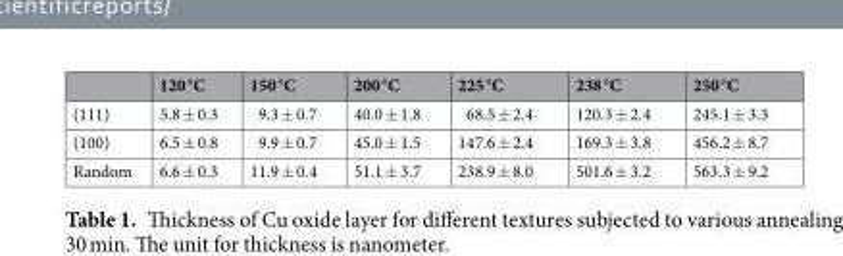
<table><thead><tr><td></td><td>120 °C</td><td>150 °C</td><td>200 °C</td><td>225 °C</td><td>238 °C</td><td>250 °C</td></tr></thead><tbody><tr><td>(111)</td><td>5.8 ± 0.3</td><td>9.3 ± 0.7</td><td>40.0 ± 1.8</td><td>68.5 ± 2.4</td><td>120.3 ± 2.4</td><td>245.1 ± 3.3</td></tr><tr><td>(100)</td><td>6.5 ± 0.8</td><td>9.9 ± 0.7</td><td>45.0 ± 1.5</td><td>147.6 ± 2.4</td><td>169.3 ± 3.8</td><td>456.2 ± 8.7</td></tr><tr><td>Random</td><td>6.6 ± 0.3</td><td>11.9 ± 0.4</td><td>51.1 ± 3.7</td><td>238.9 ± 8.0</td><td>501.6 ± 3.2</td><td>563.3 ± 9.2</td></tr></tbody></table>